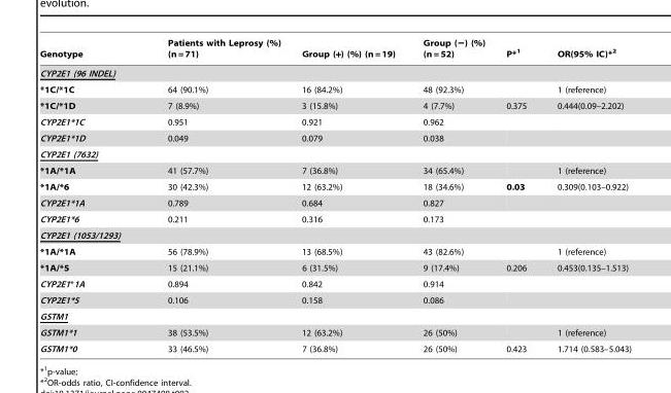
<table><thead><tr><td>Genotype</td><td>Patients with Leprosy (%) (n = 71)</td><td>Group (+) (%) (n = 19)</td><td>Group (−) (%) (n = 52)</td><td>P*<sup>1</sup></td><td>OR(95% IC)*<sup>2</sup></td></tr></thead><tbody><tr><td colspan="6">CYP2E1 (96 INDEL)</td></tr><tr><td>*1C/*1C</td><td>64 (90.1%)</td><td>16 (84.2%)</td><td>48 (92.3%)</td><td></td><td>1 (reference)</td></tr><tr><td>*1C/*1D</td><td>7 (8.9%)</td><td>3 (15.8%)</td><td>4 (7.7%)</td><td>0.375</td><td>0.444(0.09–2.202)</td></tr><tr><td>CYP2E1*1C</td><td>0.951</td><td>0.921</td><td>0.962</td><td></td><td></td></tr><tr><td>CYP2E1*1D</td><td>0.049</td><td>0.079</td><td>0.038</td><td></td><td></td></tr><tr><td colspan="6">CYP2E1 (7632)</td></tr><tr><td>*1A/*1A</td><td>41 (57.7%)</td><td>7 (36.8%)</td><td>34 (65.4%)</td><td></td><td>1 (reference)</td></tr><tr><td>*1A/*6</td><td>30 (42.3%)</td><td>12 (63.2%)</td><td>18 (34.6%)</td><td>0.03</td><td>0.309(0.103–0.922)</td></tr><tr><td>CYP2E1*1A</td><td>0.789</td><td>0.684</td><td>0.827</td><td></td><td></td></tr><tr><td>CYP2E1*6</td><td>0.211</td><td>0.316</td><td>0.173</td><td></td><td></td></tr><tr><td colspan="6">CYP2E1 (1053/1293)</td></tr><tr><td>*1A/*1A</td><td>56 (78.9%)</td><td>13 (68.5%)</td><td>43 (82.6%)</td><td></td><td>1 (reference)</td></tr><tr><td>*1A/*5</td><td>15 (21.1%)</td><td>6 (31.5%)</td><td>9 (17.4%)</td><td>0.206</td><td>0.453(0.135–1.513)</td></tr><tr><td>CYP2E1*1A</td><td>0.894</td><td>0.842</td><td>0.914</td><td></td><td></td></tr><tr><td>CYP2E1*5</td><td>0.106</td><td>0.158</td><td>0.086</td><td></td><td></td></tr><tr><td colspan="6">GSTM1</td></tr><tr><td>GSTM1*1</td><td>38 (53.5%)</td><td>12 (63.2%)</td><td>26 (50%)</td><td></td><td>1 (reference)</td></tr><tr><td>GSTM1*0</td><td>33 (46.5%)</td><td>7 (36.8%)</td><td>26 (50%)</td><td>0.423</td><td>1.714 (0.583–5.043)</td></tr></tbody></table>